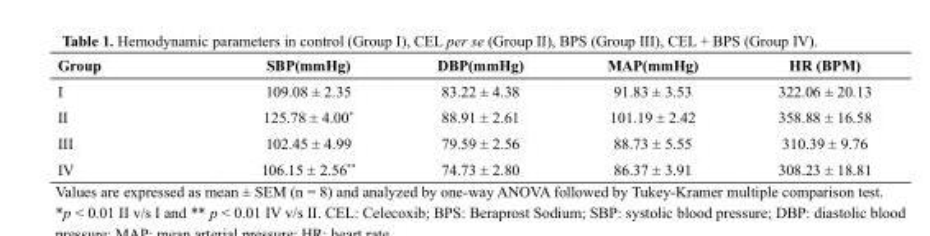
<table><thead><tr><td>Group</td><td>SBP(mmHg)</td><td>DBP(mmHg)</td><td>MAP(mmHg)</td><td>HR (BPM)</td></tr></thead><tbody><tr><td>I</td><td>109.08 ± 2.35</td><td>83.22 ± 4.38</td><td>91.83 ± 3.53</td><td>322.06 ± 20.13</td></tr><tr><td>II</td><td>125.78 ± 4.00*</td><td>88.91 ± 2.61</td><td>101.19 ± 2.42</td><td>358.88 ± 16.58</td></tr><tr><td>III</td><td>102.45 ± 4.99</td><td>79.59 ± 2.56</td><td>88.73 ± 5.55</td><td>310.39 ± 9.76</td></tr><tr><td>IV</td><td>106.15 ± 2.56**</td><td>74.73 ± 2.80</td><td>86.37 ± 3.91</td><td>308.23 ± 18.81</td></tr></tbody></table>